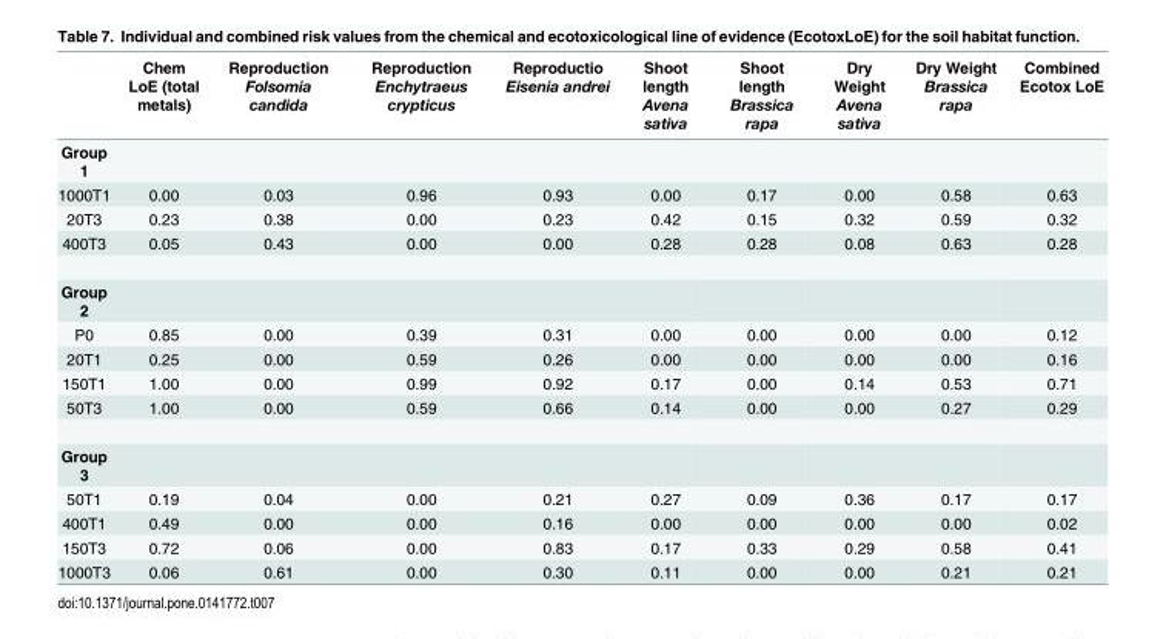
<table><thead><tr><td></td><td>Chem LoE (total metals)</td><td>Reproduction Folsomia candida</td><td>Reproduction Enchytraeus crypticus</td><td>Reproductio Eisenia andrei</td><td>Shoot length Avena sativa</td><td>Shoot length Brassica rapa</td><td>Dry Weight Avena sativa</td><td>Dry Weight Brassica rapa</td><td>Combined Ecotox LoE</td></tr></thead><tbody><tr><td colspan="10">Group 1</td></tr><tr><td>1000T1</td><td>0.00</td><td>0.03</td><td>0.96</td><td>0.93</td><td>0.00</td><td>0.17</td><td>0.00</td><td>0.58</td><td>0.63</td></tr><tr><td>20T3</td><td>0.23</td><td>0.38</td><td>0.00</td><td>0.23</td><td>0.42</td><td>0.15</td><td>0.32</td><td>0.59</td><td>0.32</td></tr><tr><td>400T3</td><td>0.05</td><td>0.43</td><td>0.00</td><td>0.00</td><td>0.28</td><td>0.28</td><td>0.08</td><td>0.63</td><td>0.28</td></tr><tr><td colspan="10">Group 2</td></tr><tr><td>P0</td><td>0.85</td><td>0.00</td><td>0.39</td><td>0.31</td><td>0.00</td><td>0.00</td><td>0.00</td><td>0.00</td><td>0.12</td></tr><tr><td>20T1</td><td>0.25</td><td>0.00</td><td>0.59</td><td>0.26</td><td>0.00</td><td>0.00</td><td>0.00</td><td>0.00</td><td>0.16</td></tr><tr><td>150T1</td><td>1.00</td><td>0.00</td><td>0.99</td><td>0.92</td><td>0.17</td><td>0.00</td><td>0.14</td><td>0.53</td><td>0.71</td></tr><tr><td>50T3</td><td>1.00</td><td>0.00</td><td>0.59</td><td>0.66</td><td>0.14</td><td>0.00</td><td>0.00</td><td>0.27</td><td>0.29</td></tr><tr><td colspan="10">Group 3</td></tr><tr><td>50T1</td><td>0.19</td><td>0.04</td><td>0.00</td><td>0.21</td><td>0.27</td><td>0.09</td><td>0.36</td><td>0.17</td><td>0.17</td></tr><tr><td>400T1</td><td>0.49</td><td>0.00</td><td>0.00</td><td>0.16</td><td>0.00</td><td>0.00</td><td>0.00</td><td>0.00</td><td>0.02</td></tr><tr><td>150T3</td><td>0.72</td><td>0.06</td><td>0.00</td><td>0.83</td><td>0.17</td><td>0.33</td><td>0.29</td><td>0.58</td><td>0.41</td></tr><tr><td>1000T3</td><td>0.06</td><td>0.61</td><td>0.00</td><td>0.30</td><td>0.11</td><td>0.00</td><td>0.00</td><td>0.21</td><td>0.21</td></tr></tbody></table>